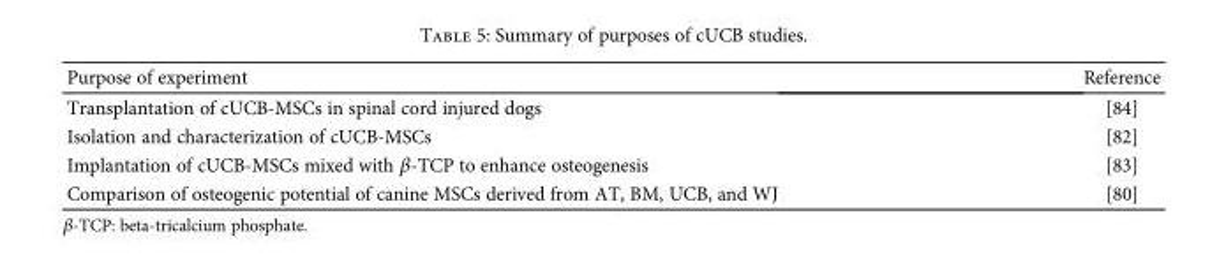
<table><thead><tr><td>Purpose of experiment</td><td>Reference</td></tr></thead><tbody><tr><td>Transplantation of cUCB-MSCs in spinal cord injured dogs</td><td>[84]</td></tr><tr><td>Isolation and characterization of cUCB-MSCs</td><td>[82]</td></tr><tr><td>Implantation of cUCB-MSCs mixed with β-TCP to enhance osteogenesis</td><td>[83]</td></tr><tr><td>Comparison of osteogenic potential of canine MSCs derived from AT, BM, UCB, and WJ</td><td>[80]</td></tr></tbody></table>